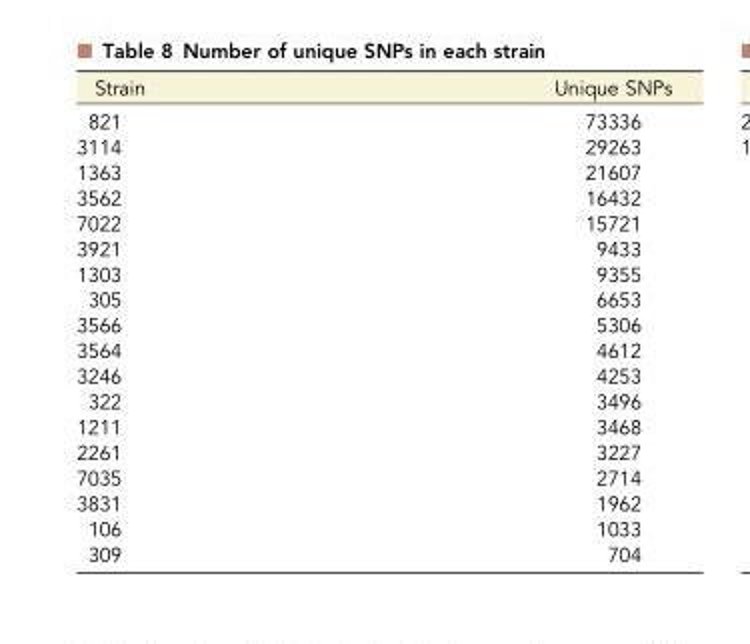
<table><thead><tr><td>Strain</td><td>Unique SNPs</td></tr></thead><tbody><tr><td>821</td><td>73336</td></tr><tr><td>3114</td><td>29263</td></tr><tr><td>1363</td><td>21607</td></tr><tr><td>3562</td><td>16432</td></tr><tr><td>7022</td><td>15721</td></tr><tr><td>3921</td><td>9433</td></tr><tr><td>1303</td><td>9355</td></tr><tr><td>305</td><td>6653</td></tr><tr><td>3566</td><td>5306</td></tr><tr><td>3564</td><td>4612</td></tr><tr><td>3246</td><td>4253</td></tr><tr><td>322</td><td>3496</td></tr><tr><td>1211</td><td>3468</td></tr><tr><td>2261</td><td>3227</td></tr><tr><td>7035</td><td>2714</td></tr><tr><td>3831</td><td>1962</td></tr><tr><td>106</td><td>1033</td></tr><tr><td>309</td><td>704</td></tr></tbody></table>